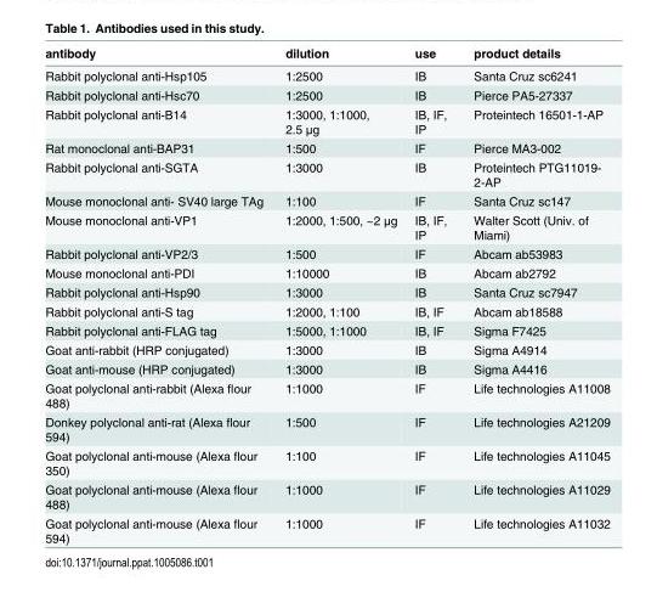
<table><thead><tr><td>antibody</td><td>dilution</td><td>use</td><td>product details</td></tr></thead><tbody><tr><td>Rabbit polyclonal anti-Hsp105</td><td>1:2500</td><td>IB</td><td>Santa Cruz sc6241</td></tr><tr><td>Rabbit polyclonal anti-Hsc70</td><td>1:2500</td><td>IB</td><td>Pierce PA5-27337</td></tr><tr><td>Rabbit polyclonal anti-B14</td><td>1:3000, 1:1000, 2.5 μg</td><td>IB, IF, IP</td><td>Proteintech 16501-1-AP</td></tr><tr><td>Rat monoclonal anti-BAP31</td><td>1:500</td><td>IF</td><td>Pierce MA3-002</td></tr><tr><td>Rabbit polyclonal anti-SGTA</td><td>1:3000</td><td>IB</td><td>Proteintech PTG11019- 2-AP</td></tr><tr><td>Mouse monoclonal anti- SV40 large TAg</td><td>1:100</td><td>IF</td><td>Santa Cruz sc147</td></tr><tr><td>Mouse monoclonal anti-VP1</td><td>1:2000, 1:500, ~2 μg</td><td>IB, IF, IP</td><td>Walter Scott (Univ. of Miami)</td></tr><tr><td>Rabbit polyclonal anti-VP2/3</td><td>1:500</td><td>IF</td><td>Abcam ab53983</td></tr><tr><td>Mouse monoclonal anti-PDI</td><td>1:10000</td><td>IB</td><td>Abcam ab2792</td></tr><tr><td>Rabbit polyclonal anti-Hsp90</td><td>1:3000</td><td>IB</td><td>Santa Cruz sc7947</td></tr><tr><td>Rabbit polyclonal anti-S tag</td><td>1:2000, 1:100</td><td>IB, IF</td><td>Abcam ab18588</td></tr><tr><td>Rabbit polyclonal anti-FLAG tag</td><td>1:5000, 1:1000</td><td>IB, IF</td><td>Sigma F7425</td></tr><tr><td>Goat anti-rabbit (HRP conjugated)</td><td>1:3000</td><td>IB</td><td>Sigma A4914</td></tr><tr><td>Goat anti-mouse (HRP conjugated)</td><td>1:3000</td><td>IB</td><td>Sigma A4416</td></tr><tr><td>Goat polyclonal anti-rabbit (Alexa flour 488)</td><td>1:1000</td><td>IF</td><td>Life technologies A11008</td></tr><tr><td>Donkey polyclonal anti-rat (Alexa flour 594)</td><td>1:500</td><td>IF</td><td>Life technologies A21209</td></tr><tr><td>Goat polyclonal anti-mouse (Alexa flour 350)</td><td>1:100</td><td>IF</td><td>Life technologies A11045</td></tr><tr><td>Goat polyclonal anti-mouse (Alexa flour 488)</td><td>1:1000</td><td>IF</td><td>Life technologies A11029</td></tr><tr><td>Goat polyclonal anti-mouse (Alexa flour 594)</td><td>1:1000</td><td>IF</td><td>Life technologies A11032</td></tr></tbody></table>